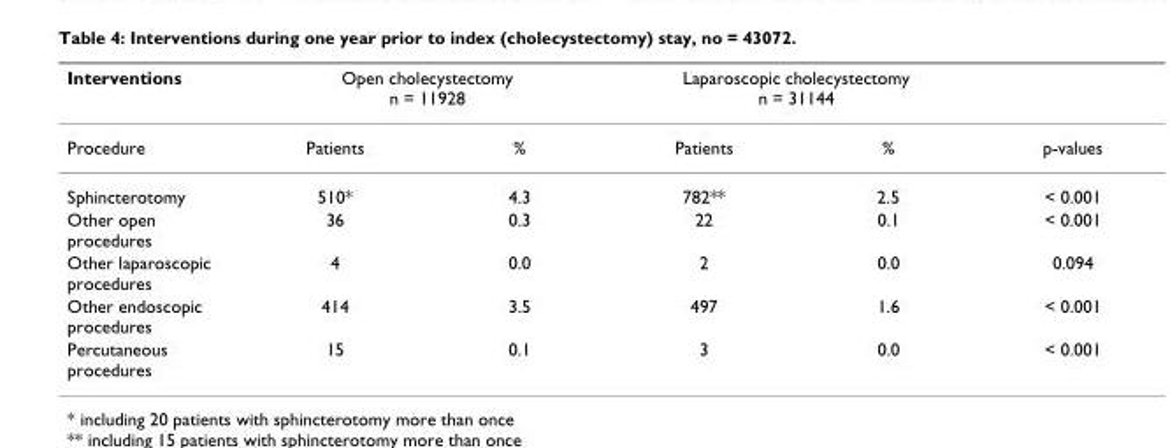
<table><thead><tr><td rowspan="2">Interventions Procedure</td><td colspan="2">Open cholecystectomy n = 11928</td><td colspan="2">Laparoscopic cholecystectomy n = 31144</td><td rowspan="2">p-values</td></tr><tr><td>Patients</td><td>%</td><td>Patients</td><td>%</td></tr></thead><tbody><tr><td>Sphincterotomy</td><td>510*</td><td>4.3</td><td>782**</td><td>2.5</td><td>&lt; 0.001</td></tr><tr><td>Other open procedures</td><td>36</td><td>0.3</td><td>22</td><td>0.1</td><td>&lt; 0.001</td></tr><tr><td>Other laparoscopic procedures</td><td>4</td><td>0.0</td><td>2</td><td>0.0</td><td>0.094</td></tr><tr><td>Other endoscopic procedures</td><td>414</td><td>3.5</td><td>497</td><td>1.6</td><td>&lt; 0.001</td></tr><tr><td>Percutaneous procedures</td><td>15</td><td>0.1</td><td>3</td><td>0.0</td><td>&lt; 0.001</td></tr></tbody></table>